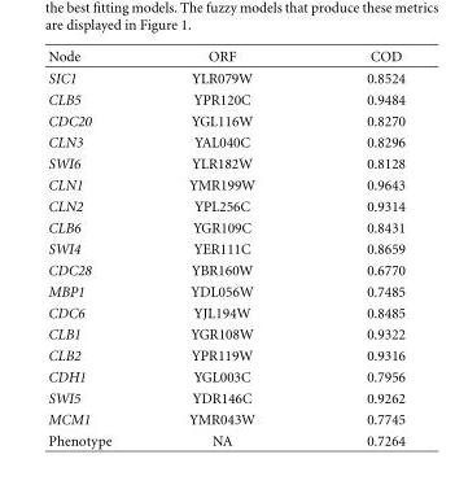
<table><thead><tr><td>Node</td><td>ORF</td><td>COD</td></tr></thead><tbody><tr><td>SIC1</td><td>YLR079W</td><td>0.8524</td></tr><tr><td>CLB5</td><td>YPR120C</td><td>0.9484</td></tr><tr><td>CDC20</td><td>YGL116W</td><td>0.8270</td></tr><tr><td>CLN3</td><td>YAL040C</td><td>0.8296</td></tr><tr><td>SWI6</td><td>YLR182W</td><td>0.8128</td></tr><tr><td>CLN1</td><td>YMR199W</td><td>0.9643</td></tr><tr><td>CLN2</td><td>YPL256C</td><td>0.9314</td></tr><tr><td>CLB6</td><td>YGR109C</td><td>0.8431</td></tr><tr><td>SWI4</td><td>YER111C</td><td>0.8659</td></tr><tr><td>CDC28</td><td>YBR160W</td><td>0.6770</td></tr><tr><td>MBP1</td><td>YDL056W</td><td>0.7485</td></tr><tr><td>CDC6</td><td>YJL194W</td><td>0.8485</td></tr><tr><td>CLB1</td><td>YGR108W</td><td>0.9322</td></tr><tr><td>CLB2</td><td>YPR119W</td><td>0.9316</td></tr><tr><td>CDH1</td><td>YGL003C</td><td>0.7956</td></tr><tr><td>SWI5</td><td>YDR146C</td><td>0.9262</td></tr><tr><td>MCM1</td><td>YMR043W</td><td>0.7745</td></tr><tr><td>Phenotype</td><td>NA</td><td>0.7264</td></tr></tbody></table>